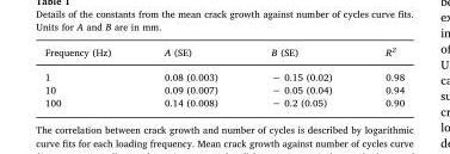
<table><thead><tr><td>Frequency (Hz)</td><td>A (SE)</td><td>B (SE)</td><td>R<sup>2</sup></td></tr></thead><tbody><tr><td>1</td><td>0.08 (0.003)</td><td>− 0.15 (0.02)</td><td>0.98</td></tr><tr><td>10</td><td>0.09 (0.007)</td><td>− 0.05 (0.04)</td><td>0.94</td></tr><tr><td>100</td><td>0.14 (0.008)</td><td>− 0.2 (0.05)</td><td>0.90</td></tr></tbody></table>